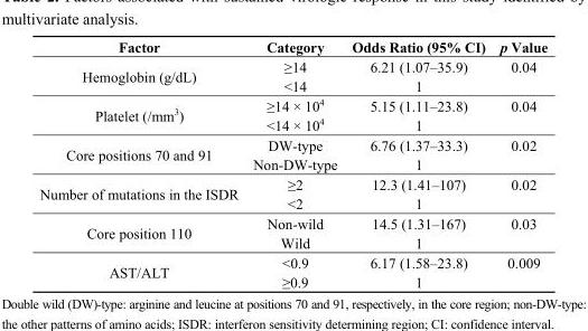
<table><thead><tr><td>Factor</td><td>Category</td><td>Odds Ratio (95% CI)</td><td>p Value</td></tr></thead><tbody><tr><td rowspan="2">Hemoglobin (g/dL)</td><td>≥14</td><td>6.21 (1.07–35.9)</td><td>0.04</td></tr><tr><td>&lt;14</td><td>1</td><td></td></tr><tr><td rowspan="2">Platelet (/mm<sup>3</sup>)</td><td>≥14 × 10<sup>4</sup></td><td>5.15 (1.11–23.8)</td><td>0.04</td></tr><tr><td>&lt;14 × 10<sup>4</sup></td><td>1</td><td></td></tr><tr><td rowspan="2">Core positions 70 and 91</td><td>DW-type</td><td>6.76 (1.37–33.3)</td><td>0.02</td></tr><tr><td>Non-DW-type</td><td>1</td><td></td></tr><tr><td rowspan="2">Number of mutations in the ISDR</td><td>≥2</td><td>12.3 (1.41–107)</td><td>0.02</td></tr><tr><td>&lt;2</td><td>1</td><td></td></tr><tr><td rowspan="2">Core position 110</td><td>Non-wild</td><td>14.5 (1.31–167)</td><td>0.03</td></tr><tr><td>Wild</td><td>1</td><td></td></tr><tr><td rowspan="2">AST/ALT</td><td>&lt;0.9</td><td>6.17 (1.58–23.8)</td><td>0.009</td></tr><tr><td>≥0.9</td><td>1</td><td></td></tr></tbody></table>